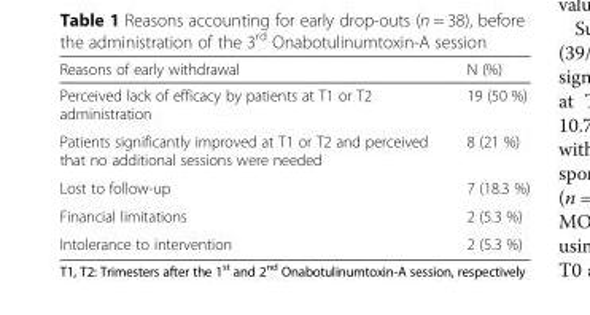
<table><thead><tr><td>Reasons of early withdrawal</td><td>N (%)</td></tr></thead><tbody><tr><td>Perceived lack of efficacy by patients at T1 or T2 administration</td><td>19 (50 %)</td></tr><tr><td>Patients significantly improved at T1 or T2 and perceived that no additional sessions were needed</td><td>8 (21 %)</td></tr><tr><td>Lost to follow-up</td><td>7 (18.3 %)</td></tr><tr><td>Financial limitations</td><td>2 (5.3 %)</td></tr><tr><td>Intolerance to intervention</td><td>2 (5.3 %)</td></tr></tbody></table>